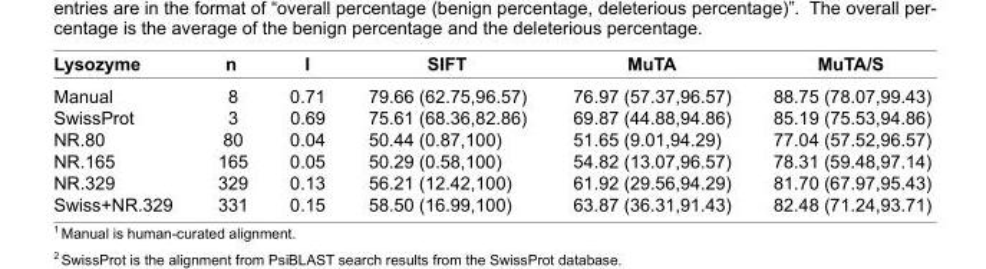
<table><thead><tr><td>Lysozyme</td><td>n</td><td>I</td><td>SIFT</td><td>MuTA</td><td>MuTA/S</td></tr></thead><tbody><tr><td>Manual</td><td>8</td><td>0.71</td><td>79.66 (62.75,96.57)</td><td>76.97 (57.37,96.57)</td><td>88.75 (78.07,99.43)</td></tr><tr><td>SwissProt</td><td>3</td><td>0.69</td><td>75.61 (68.36,82.86)</td><td>69.87 (44.88,94.86)</td><td>85.19 (75.53,94.86)</td></tr><tr><td>NR.80</td><td>80</td><td>0.04</td><td>50.44 (0.87,100)</td><td>51.65 (9.01,94.29)</td><td>77.04 (57.52,96.57)</td></tr><tr><td>NR.165</td><td>165</td><td>0.05</td><td>50.29 (0.58,100)</td><td>54.82 (13.07,96.57)</td><td>78.31 (59.48,97.14)</td></tr><tr><td>NR.329</td><td>329</td><td>0.13</td><td>56.21 (12.42,100)</td><td>61.92 (29.56,94.29)</td><td>81.70 (67.97,95.43)</td></tr><tr><td>Swiss+NR.329</td><td>331</td><td>0.15</td><td>58.50 (16.99,100)</td><td>63.87 (36.31,91.43)</td><td>82.48 (71.24,93.71)</td></tr></tbody></table>